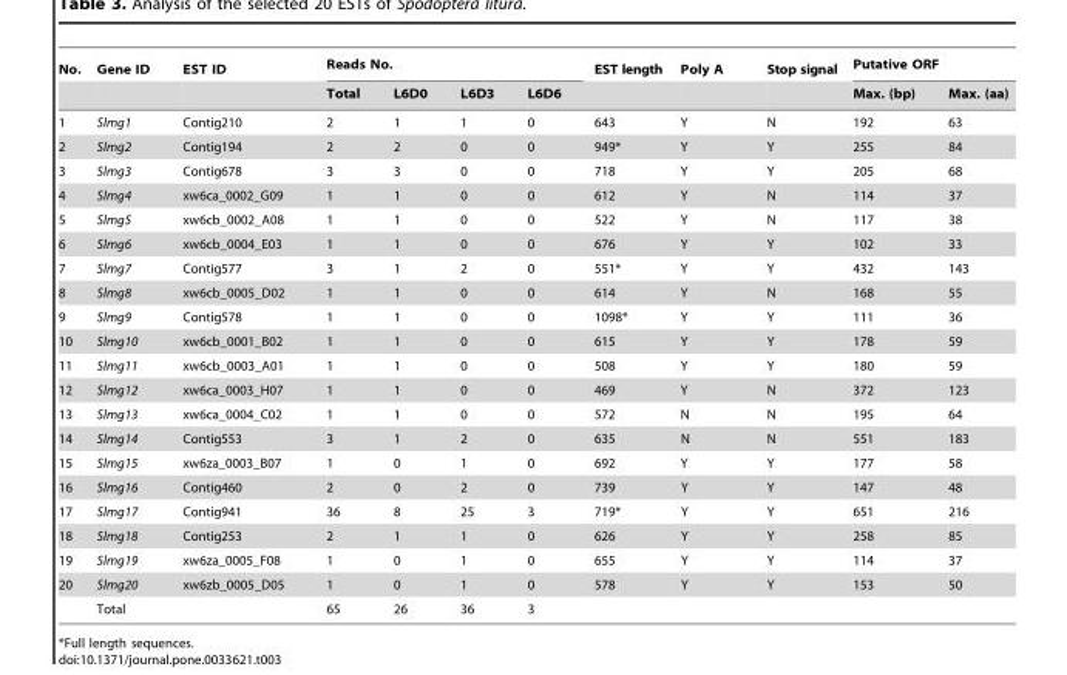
<table><thead><tr><td rowspan="2">No.</td><td rowspan="2">Gene ID</td><td rowspan="2">EST ID</td><td colspan="4">Reads No.</td><td rowspan="2">EST length</td><td rowspan="2">Poly A</td><td rowspan="2">Stop signal</td><td colspan="2">Putative ORF</td></tr><tr><td>Total</td><td>L6D0</td><td>L6D3</td><td>L6D6</td><td>Max. (bp)</td><td>Max. (aa)</td></tr></thead><tbody><tr><td>1</td><td>Slmg1</td><td>Contig210</td><td>2</td><td>1</td><td>1</td><td>0</td><td>643</td><td>Y</td><td>N</td><td>192</td><td>63</td></tr><tr><td>2</td><td>Slmg2</td><td>Contig194</td><td>2</td><td>2</td><td>0</td><td>0</td><td>949*</td><td>Y</td><td>Y</td><td>255</td><td>84</td></tr><tr><td>3</td><td>Slmg3</td><td>Contig678</td><td>3</td><td>3</td><td>0</td><td>0</td><td>718</td><td>Y</td><td>Y</td><td>205</td><td>68</td></tr><tr><td>4</td><td>Slmg4</td><td>xw6ca_0002_G09</td><td>1</td><td>1</td><td>0</td><td>0</td><td>612</td><td>Y</td><td>N</td><td>114</td><td>37</td></tr><tr><td>5</td><td>Slmg5</td><td>xw6cb_0002_A08</td><td>1</td><td>1</td><td>0</td><td>0</td><td>522</td><td>Y</td><td>N</td><td>117</td><td>38</td></tr><tr><td>6</td><td>Slmg6</td><td>xw6cb_0004_E03</td><td>1</td><td>1</td><td>0</td><td>0</td><td>676</td><td>Y</td><td>Y</td><td>102</td><td>33</td></tr><tr><td>7</td><td>Slmg7</td><td>Contig577</td><td>3</td><td>1</td><td>2</td><td>0</td><td>551*</td><td>Y</td><td>Y</td><td>432</td><td>143</td></tr><tr><td>8</td><td>Slmg8</td><td>xw6cb_0005_D02</td><td>1</td><td>1</td><td>0</td><td>0</td><td>614</td><td>Y</td><td>N</td><td>168</td><td>55</td></tr><tr><td>9</td><td>Slmg9</td><td>Contig578</td><td>1</td><td>1</td><td>0</td><td>0</td><td>1098*</td><td>Y</td><td>Y</td><td>111</td><td>36</td></tr><tr><td>10</td><td>Slmg10</td><td>xw6cb_0001_B02</td><td>1</td><td>1</td><td>0</td><td>0</td><td>615</td><td>Y</td><td>Y</td><td>178</td><td>59</td></tr><tr><td>11</td><td>Slmg11</td><td>xw6cb_0003_A01</td><td>1</td><td>1</td><td>0</td><td>0</td><td>508</td><td>Y</td><td>Y</td><td>180</td><td>59</td></tr><tr><td>12</td><td>Slmg12</td><td>xw6ca_0003_H07</td><td>1</td><td>1</td><td>0</td><td>0</td><td>469</td><td>Y</td><td>N</td><td>372</td><td>123</td></tr><tr><td>13</td><td>Slmg13</td><td>xw6ca_0004_C02</td><td>1</td><td>1</td><td>0</td><td>0</td><td>572</td><td>N</td><td>N</td><td>195</td><td>64</td></tr><tr><td>14</td><td>Slmg14</td><td>Contig553</td><td>3</td><td>1</td><td>2</td><td>0</td><td>635</td><td>N</td><td>N</td><td>551</td><td>183</td></tr><tr><td>15</td><td>Slmg15</td><td>xw6za_0003_B07</td><td>1</td><td>0</td><td>1</td><td>0</td><td>692</td><td>Y</td><td>Y</td><td>177</td><td>58</td></tr><tr><td>16</td><td>Slmg16</td><td>Contig460</td><td>2</td><td>0</td><td>2</td><td>0</td><td>739</td><td>Y</td><td>Y</td><td>147</td><td>48</td></tr><tr><td>17</td><td>Slmg17</td><td>Contig941</td><td>36</td><td>8</td><td>25</td><td>3</td><td>719*</td><td>Y</td><td>Y</td><td>651</td><td>216</td></tr><tr><td>18</td><td>Slmg18</td><td>Contig253</td><td>2</td><td>1</td><td>1</td><td>0</td><td>626</td><td>Y</td><td>Y</td><td>258</td><td>85</td></tr><tr><td>19</td><td>Slmg19</td><td>xw6za_0005_F08</td><td>1</td><td>0</td><td>1</td><td>0</td><td>655</td><td>Y</td><td>Y</td><td>114</td><td>37</td></tr><tr><td rowspan="2">20</td><td>Slmg20</td><td>xw6zb_0005_D05</td><td>1</td><td>0</td><td>1</td><td>0</td><td>578</td><td>Y</td><td>Y</td><td>153</td><td>50</td></tr><tr><td>Total</td><td></td><td>65</td><td>26</td><td>36</td><td>3</td><td></td><td></td><td></td><td></td><td></td></tr></tbody></table>